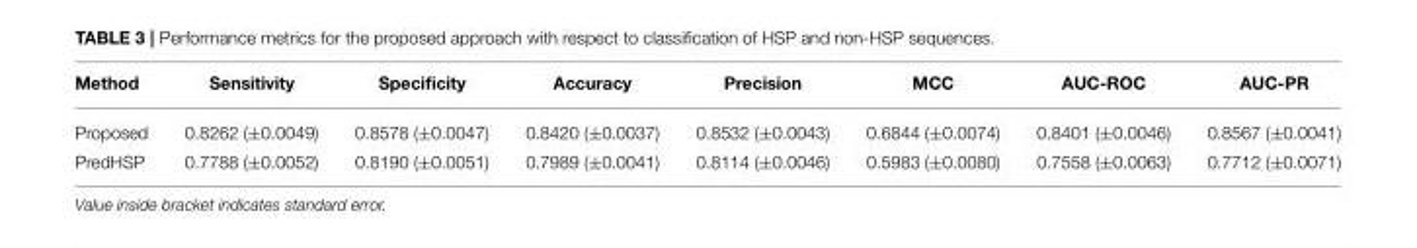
<table><thead><tr><td>Method</td><td>Sensitivity</td><td>Specificity</td><td>Accuracy</td><td>Precision</td><td>MCC</td><td>AUC-ROC</td><td>AUC-PR</td></tr></thead><tbody><tr><td>Proposed</td><td>0.8262 (±0.0049)</td><td>0.8578 (±0.0047)</td><td>0.8420 (±0.0037)</td><td>0.8532 (±0.0043)</td><td>0.6844 (±0.0074)</td><td>0.8401 (±0.0046)</td><td>0.8567 (±0.0041)</td></tr><tr><td>PredHSP</td><td>0.7788 (±0.0052)</td><td>0.8190 (±0.0051)</td><td>0.7989 (±0.0041)</td><td>0.8114 (±0.0046)</td><td>0.5983 (±0.0080)</td><td>0.7558 (±0.0063)</td><td>0.7712 (±0.0071)</td></tr></tbody></table>